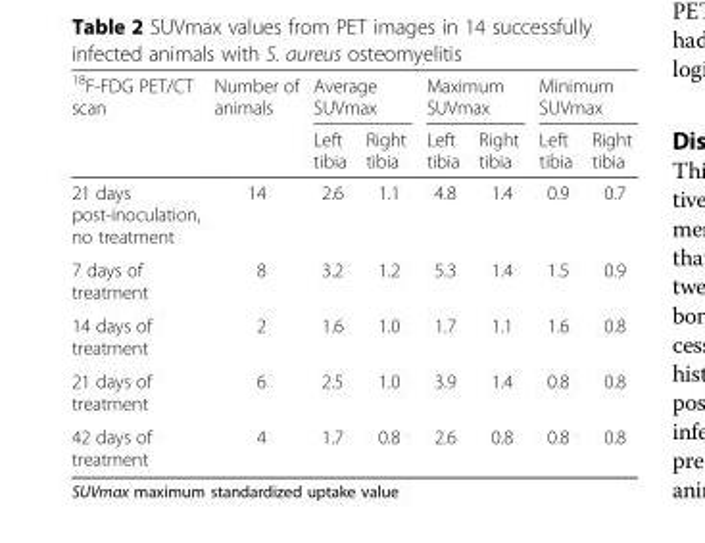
<table><thead><tr><td rowspan="2"><sup>18</sup>F-FDG PET/CT scan</td><td rowspan="2">Number of animals</td><td colspan="2">Average SUVmax</td><td colspan="2">Maximum SUVmax</td><td colspan="2">Minimum SUVmax</td></tr><tr><td>Left tibia</td><td>Right tibia</td><td>Left tibia</td><td>Right tibia</td><td>Left tibia</td><td>Right tibia</td></tr></thead><tbody><tr><td>21 days post-inoculation, no treatment</td><td>14</td><td>2.6</td><td>1.1</td><td>4.8</td><td>1.4</td><td>0.9</td><td>0.7</td></tr><tr><td>7 days of treatment</td><td>8</td><td>3.2</td><td>1.2</td><td>5.3</td><td>1.4</td><td>1.5</td><td>0.9</td></tr><tr><td>14 days of treatment</td><td>2</td><td>1.6</td><td>1.0</td><td>1.7</td><td>1.1</td><td>1.6</td><td>0.8</td></tr><tr><td>21 days of treatment</td><td>6</td><td>2.5</td><td>1.0</td><td>3.9</td><td>1.4</td><td>0.8</td><td>0.8</td></tr><tr><td>42 days of treatment</td><td>4</td><td>1.7</td><td>0.8</td><td>2.6</td><td>0.8</td><td>0.8</td><td>0.8</td></tr></tbody></table>